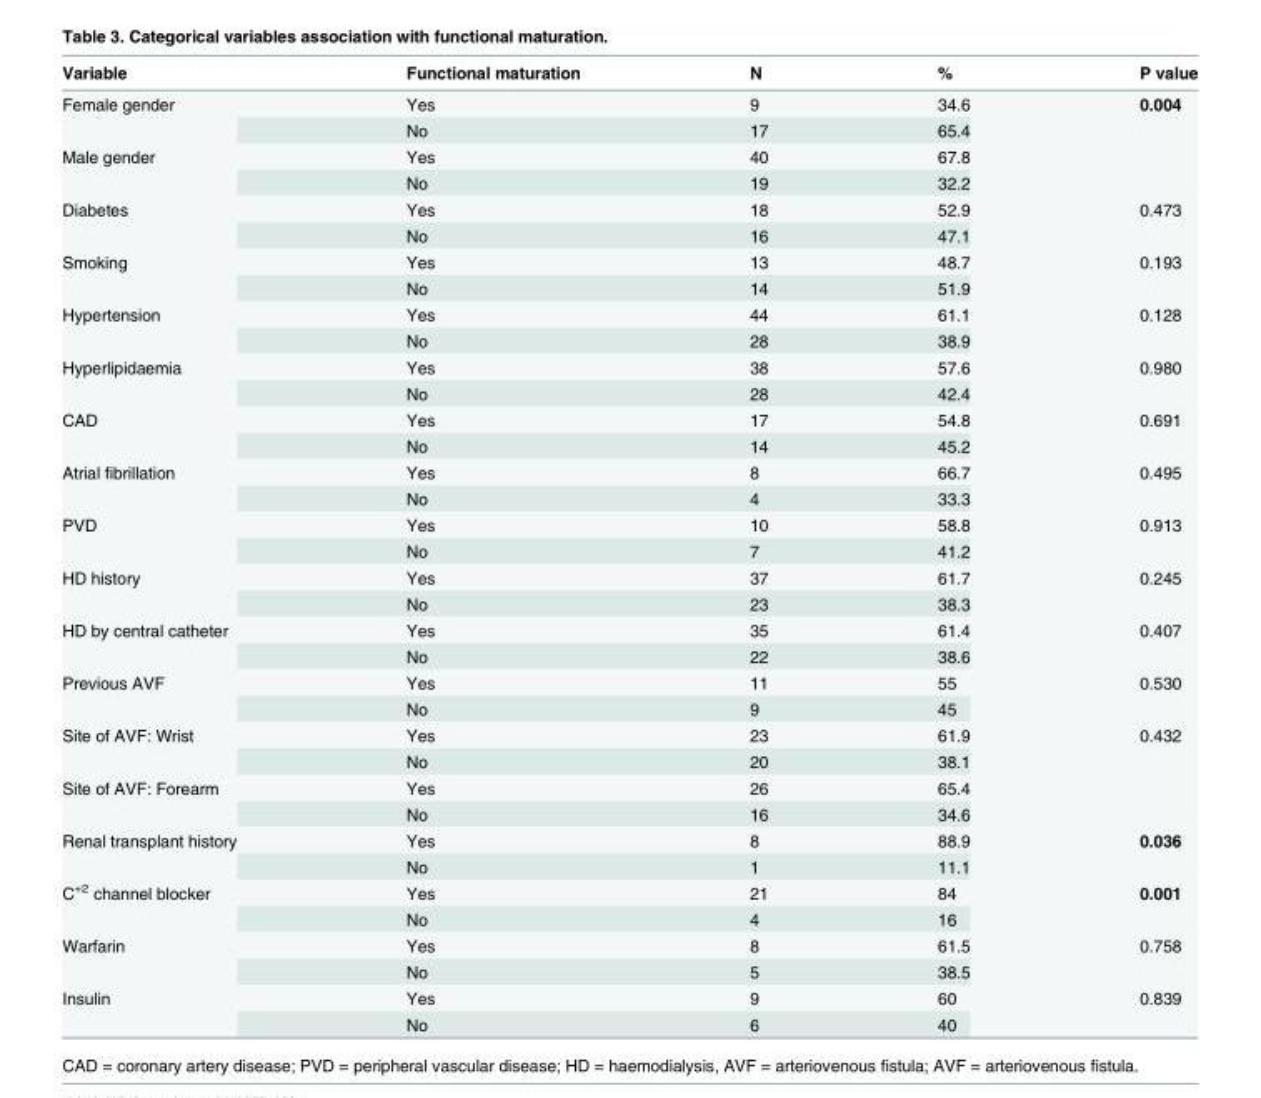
<table><thead><tr><td>Variable</td><td>Functional maturation</td><td>N</td><td>%</td><td>P value</td></tr></thead><tbody><tr><td rowspan="2">Female gender</td><td>Yes</td><td>9</td><td>34.6</td><td rowspan="4">0.004</td></tr><tr><td>No</td><td>17</td><td>65.4</td></tr><tr><td rowspan="2">Male gender</td><td>Yes</td><td>40</td><td>67.8</td></tr><tr><td>No</td><td>19</td><td>32.2</td></tr><tr><td rowspan="2">Diabetes</td><td>Yes</td><td>18</td><td>52.9</td><td rowspan="2">0.473</td></tr><tr><td>No</td><td>16</td><td>47.1</td></tr><tr><td rowspan="2">Smoking</td><td>Yes</td><td>13</td><td>48.7</td><td rowspan="2">0.193</td></tr><tr><td>No</td><td>14</td><td>51.9</td></tr><tr><td rowspan="2">Hypertension</td><td>Yes</td><td>44</td><td>61.1</td><td rowspan="2">0.128</td></tr><tr><td>No</td><td>28</td><td>38.9</td></tr><tr><td rowspan="2">Hyperlipidaemia</td><td>Yes</td><td>38</td><td>57.6</td><td rowspan="2">0.980</td></tr><tr><td>No</td><td>28</td><td>42.4</td></tr><tr><td rowspan="2">CAD</td><td>Yes</td><td>17</td><td>54.8</td><td rowspan="2">0.691</td></tr><tr><td>No</td><td>14</td><td>45.2</td></tr><tr><td rowspan="2">Atrial fibrillation</td><td>Yes</td><td>8</td><td>66.7</td><td rowspan="2">0.495</td></tr><tr><td>No</td><td>4</td><td>33.3</td></tr><tr><td rowspan="2">PVD</td><td>Yes</td><td>10</td><td>58.8</td><td rowspan="2">0.913</td></tr><tr><td>No</td><td>7</td><td>41.2</td></tr><tr><td rowspan="2">HD history</td><td>Yes</td><td>37</td><td>61.7</td><td rowspan="2">0.245</td></tr><tr><td>No</td><td>23</td><td>38.3</td></tr><tr><td rowspan="2">HD by central catheter</td><td>Yes</td><td>35</td><td>61.4</td><td rowspan="2">0.407</td></tr><tr><td>No</td><td>22</td><td>38.6</td></tr><tr><td rowspan="2">Previous AVF</td><td>Yes</td><td>11</td><td>55</td><td rowspan="2">0.530</td></tr><tr><td>No</td><td>9</td><td>45</td></tr><tr><td rowspan="2">Site of AVF: Wrist</td><td>Yes</td><td>23</td><td>61.9</td><td rowspan="4">0.432</td></tr><tr><td>No</td><td>20</td><td>38.1</td></tr><tr><td rowspan="2">Site of AVF: Forearm</td><td>Yes</td><td>26</td><td>65.4</td></tr><tr><td>No</td><td>16</td><td>34.6</td></tr><tr><td rowspan="2">Renal transplant history</td><td>Yes</td><td>8</td><td>88.9</td><td rowspan="2">0.036</td></tr><tr><td>No</td><td>1</td><td>11.1</td></tr><tr><td rowspan="2">C<sup>+2</sup> channel blocker</td><td>Yes</td><td>21</td><td>84</td><td rowspan="2">0.001</td></tr><tr><td>No</td><td>4</td><td>16</td></tr><tr><td rowspan="2">Warfarin</td><td>Yes</td><td>8</td><td>61.5</td><td rowspan="2">0.758</td></tr><tr><td>No</td><td>5</td><td>38.5</td></tr><tr><td rowspan="2">Insulin</td><td>Yes</td><td>9</td><td>60</td><td rowspan="2">0.839</td></tr><tr><td>No</td><td>6</td><td>40</td></tr></tbody></table>